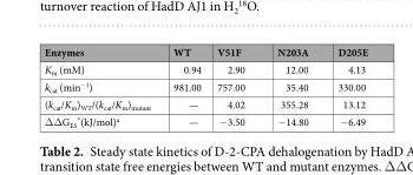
<table><thead><tr><td>Enzymes</td><td>WT</td><td>V51F</td><td>N203A</td><td>D205E</td></tr></thead><tbody><tr><td>K<sub>m</sub> (mM)</td><td>0.94</td><td>2.90</td><td>12.00</td><td>4.13</td></tr><tr><td>k<sub>cat</sub> (min<sup>−1</sup>)</td><td>981.00</td><td>757.00</td><td>35.40</td><td>330.00</td></tr><tr><td>(k<sub>cat</sub>/K<sub>m</sub>)<sub>WT</sub>/(k<sub>cat</sub>/K<sub>m</sub>)<sub>mutant</sub></td><td>—</td><td>4.02</td><td>355.28</td><td>13.12</td></tr><tr><td>ΔΔG<sub>ES</sub> *(kJ/mol)<sup>a</sup></td><td>—</td><td>−3.50</td><td>−14.80</td><td>−6.49</td></tr></tbody></table>